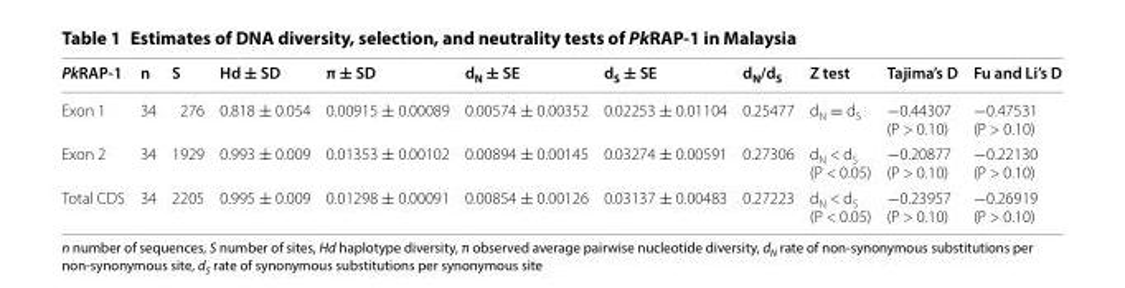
<table><thead><tr><td>PkRAP‑1</td><td>n</td><td>S</td><td>Hd ± SD</td><td>π ± SD</td><td>d<sub>N</sub> ± SE</td><td>d<sub>S</sub> ± SE</td><td>d<sub>N</sub>/d<sub>S</sub></td><td>Z test</td><td>Tajima’s D</td><td>Fu and Li’s D</td></tr></thead><tbody><tr><td>Exon 1</td><td>34</td><td>276</td><td>0.818 ± 0.054</td><td>0.00915 ± 0.00089</td><td>0.00574 ± 0.00352</td><td>0.02253 ± 0.01104</td><td>0.25477</td><td>d<sub>N</sub> = d<sub>S</sub></td><td>−0.44307 (P &gt; 0.10)</td><td>−0.47531 (P &gt; 0.10)</td></tr><tr><td>Exon 2</td><td>34</td><td>1929</td><td>0.993 ± 0.009</td><td>0.01353 ± 0.00102</td><td>0.00894 ± 0.00145</td><td>0.03274 ± 0.00591</td><td>0.27306</td><td>d<sub>N</sub> &lt; d<sub>S</sub> (P &lt; 0.05)</td><td>−0.20877 (P &gt; 0.10)</td><td>−0.22130 (P &gt; 0.10)</td></tr><tr><td>Total CDS</td><td>34</td><td>2205</td><td>0.995 ± 0.009</td><td>0.01298 ± 0.00091</td><td>0.00854 ± 0.00126</td><td>0.03137 ± 0.00483</td><td>0.27223</td><td>d<sub>N</sub> &lt; d<sub>S</sub> (P &lt; 0.05)</td><td>−0.23957 (P &gt; 0.10)</td><td>−0.26919 (P &gt; 0.10)</td></tr></tbody></table>